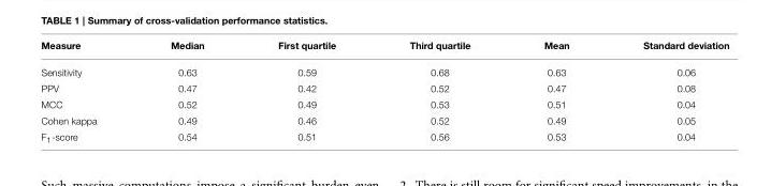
<table><thead><tr><td>Measure</td><td>Median</td><td>First quartile</td><td>Third quartile</td><td>Mean</td><td>Standard deviation</td></tr></thead><tbody><tr><td>Sensitivity</td><td>0.63</td><td>0.59</td><td>0.68</td><td>0.63</td><td>0.06</td></tr><tr><td>PPV</td><td>0.47</td><td>0.42</td><td>0.52</td><td>0.47</td><td>0.08</td></tr><tr><td>MCC</td><td>0.52</td><td>0.49</td><td>0.53</td><td>0.51</td><td>0.04</td></tr><tr><td>Cohen kappa</td><td>0.49</td><td>0.46</td><td>0.52</td><td>0.49</td><td>0.05</td></tr><tr><td>F<sub>1</sub>-score</td><td>0.54</td><td>0.51</td><td>0.56</td><td>0.53</td><td>0.04</td></tr></tbody></table>